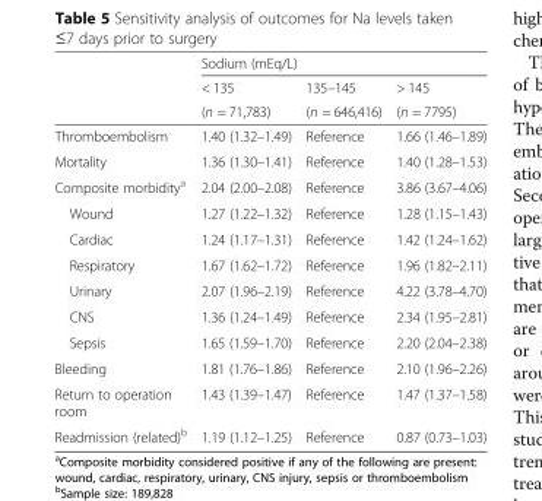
<table><thead><tr><td rowspan="3"></td><td colspan="3">Sodium (mEq/L)</td></tr><tr><td rowspan="2">&lt; 135 (n = 71,783)</td><td rowspan="2">135–145 (n = 646,416)</td><td rowspan="2">&gt; 145 (n = 7795)</td></tr><tr></tr></thead><tbody><tr><td>Thromboembolism</td><td>1.40 (1.32–1.49)</td><td>Reference</td><td>1.66 (1.46–1.89)</td></tr><tr><td>Mortality</td><td>1.36 (1.30–1.41)</td><td>Reference</td><td>1.40 (1.28–1.53)</td></tr><tr><td>Composite morbidity<sup>a</sup></td><td>2.04 (2.00–2.08)</td><td>Reference</td><td>3.86 (3.67–4.06)</td></tr><tr><td>Wound</td><td>1.27 (1.22–1.32)</td><td>Reference</td><td>1.28 (1.15–1.43)</td></tr><tr><td>Cardiac</td><td>1.24 (1.17–1.31)</td><td>Reference</td><td>1.42 (1.24–1.62)</td></tr><tr><td>Respiratory</td><td>1.67 (1.62–1.72)</td><td>Reference</td><td>1.96 (1.82–2.11)</td></tr><tr><td>Urinary</td><td>2.07 (1.96–2.19)</td><td>Reference</td><td>4.22 (3.78–4.70)</td></tr><tr><td>CNS</td><td>1.36 (1.24–1.49)</td><td>Reference</td><td>2.34 (1.95–2.81)</td></tr><tr><td>Sepsis</td><td>1.65 (1.59–1.70)</td><td>Reference</td><td>2.20 (2.04–2.38)</td></tr><tr><td>Bleeding</td><td>1.81 (1.76–1.86)</td><td>Reference</td><td>2.10 (1.96–2.26)</td></tr><tr><td>Return to operation room</td><td>1.43 (1.39–1.47)</td><td>Reference</td><td>1.47 (1.37–1.58)</td></tr><tr><td>Readmission (related)<sup>b</sup></td><td>1.19 (1.12–1.25)</td><td>Reference</td><td>0.87 (0.73–1.03)</td></tr></tbody></table>